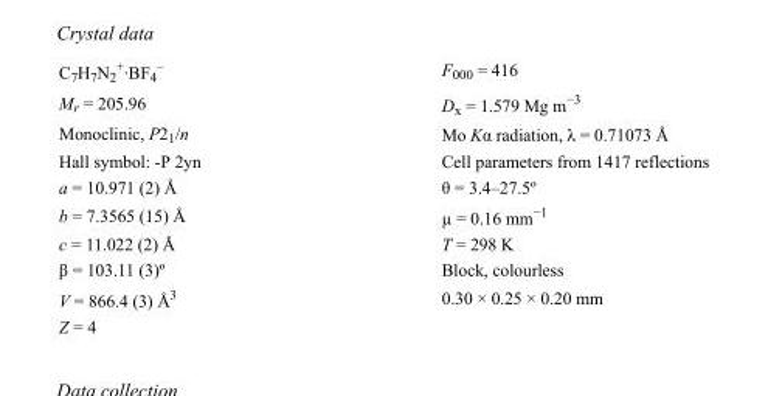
<table><tbody><tr><td>C<sub>7</sub>H<sub>7</sub>N<sub>2</sub> <sup>+</sup>·BF<sub>4</sub> <sup>–</sup></td><td>F000 = 416</td></tr><tr><td>M<sub>r</sub> = 205.96</td><td>D<sub>x</sub> = 1.579 Mg m<sup>−3</sup></td></tr><tr><td>Monoclinic, P2<sub>1</sub>/n</td><td>Mo Kα radiation, λ = 0.71073 Å</td></tr><tr><td>Hall symbol: -P 2yn</td><td>Cell parameters from 1417 reflections</td></tr><tr><td>a = 10.971 (2) Å</td><td>θ = 3.4–27.5º</td></tr><tr><td>b = 7.3565 (15) Å</td><td>µ = 0.16 mm<sup>−1</sup></td></tr><tr><td>c = 11.022 (2) Å</td><td>T = 298 K</td></tr><tr><td>β = 103.11 (3)º</td><td>Block, colourless</td></tr><tr><td>V = 866.4 (3) Å<sup>3</sup></td><td>0.30 × 0.25 × 0.20 mm</td></tr><tr><td>Z = 4</td><td></td></tr></tbody></table>